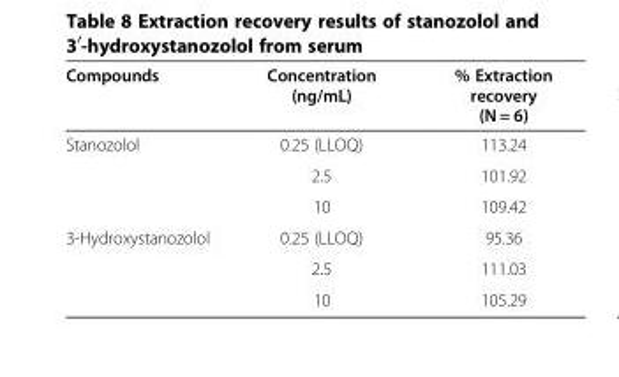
<table><thead><tr><td>Compounds</td><td>Concentration (ng/mL)</td><td>% Extraction recovery (N = 6)</td></tr></thead><tbody><tr><td rowspan="3">Stanozolol</td><td>0.25 (LLOQ)</td><td>113.24</td></tr><tr><td>2.5</td><td>101.92</td></tr><tr><td>10</td><td>109.42</td></tr><tr><td rowspan="3">3-Hydroxystanozolol</td><td>0.25 (LLOQ)</td><td>95.36</td></tr><tr><td>2.5</td><td>111.03</td></tr><tr><td>10</td><td>105.29</td></tr></tbody></table>